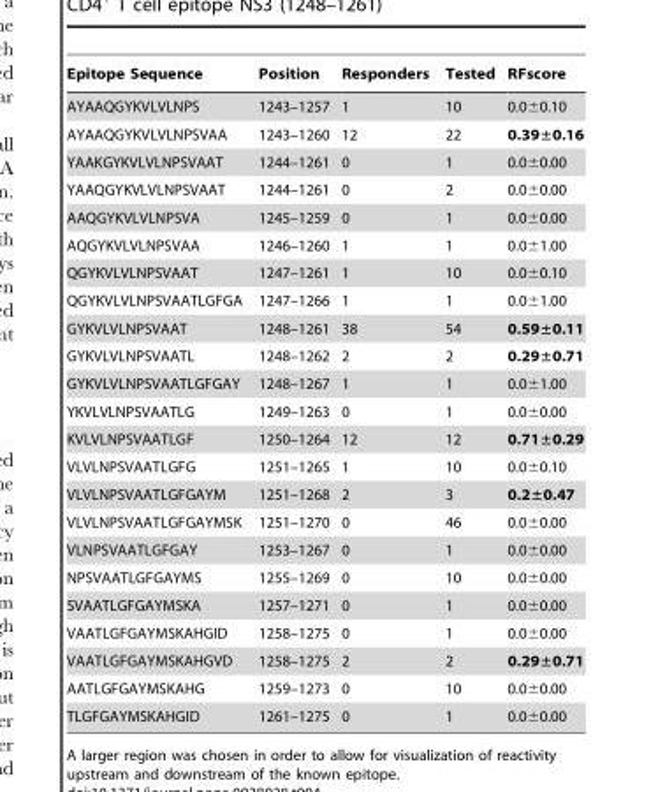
<table><thead><tr><td>Epitope Sequence</td><td>Position</td><td>Responders</td><td>Tested</td><td>RFscore</td></tr></thead><tbody><tr><td>AYAAQGYKVLVLNPS</td><td>1243–1257</td><td>1</td><td>10</td><td>0.0±0.10</td></tr><tr><td>AYAAQGYKVLVLNPSVAA</td><td>1243–1260</td><td>12</td><td>22</td><td>0.39±0.16</td></tr><tr><td>YAAKGYKVLVLNPSVAAT</td><td>1244–1261</td><td>0</td><td>1</td><td>0.0±0.00</td></tr><tr><td>YAAQGYKVLVLNPSVAAT</td><td>1244–1261</td><td>0</td><td>2</td><td>0.0±0.00</td></tr><tr><td>AAQGYKVLVLNPSVA</td><td>1245–1259</td><td>0</td><td>1</td><td>0.0±0.00</td></tr><tr><td>AQGYKVLVLNPSVAA</td><td>1246–1260</td><td>1</td><td>1</td><td>0.0±1.00</td></tr><tr><td>QGYKVLVLNPSVAAT</td><td>1247–1261</td><td>1</td><td>10</td><td>0.0±0.10</td></tr><tr><td>QGYKVLVLNPSVAATLGFGA</td><td>1247–1266</td><td>1</td><td>1</td><td>0.0±1.00</td></tr><tr><td>GYKVLVLNPSVAAT</td><td>1248–1261</td><td>38</td><td>54</td><td>0.59±0.11</td></tr><tr><td>GYKVLVLNPSVAATL</td><td>1248–1262</td><td>2</td><td>2</td><td>0.29±0.71</td></tr><tr><td>GYKVLVLNPSVAATLGFGAY</td><td>1248–1267</td><td>1</td><td>1</td><td>0.0±1.00</td></tr><tr><td>YKVLVLNPSVAATLG</td><td>1249–1263</td><td>0</td><td>1</td><td>0.0±0.00</td></tr><tr><td>KVLVLNPSVAATLGF</td><td>1250–1264</td><td>12</td><td>12</td><td>0.71±0.29</td></tr><tr><td>VLVLNPSVAATLGFG</td><td>1251–1265</td><td>1</td><td>10</td><td>0.0±0.10</td></tr><tr><td>VLVLNPSVAATLGFGAYM</td><td>1251–1268</td><td>2</td><td>3</td><td>0.2±0.47</td></tr><tr><td>VLVLNPSVAATLGFGAYMSK</td><td>1251–1270</td><td>0</td><td>46</td><td>0.0±0.00</td></tr><tr><td>VLNPSVAATLGFGAY</td><td>1253–1267</td><td>0</td><td>1</td><td>0.0±0.00</td></tr><tr><td>NPSVAATLGFGAYMS</td><td>1255–1269</td><td>0</td><td>10</td><td>0.0±0.00</td></tr><tr><td>SVAATLGFGAYMSKA</td><td>1257–1271</td><td>0</td><td>1</td><td>0.0±0.00</td></tr><tr><td>VAATLGFGAYMSKAHGID</td><td>1258–1275</td><td>0</td><td>1</td><td>0.0±0.00</td></tr><tr><td>VAATLGFGAYMSKAHGVD</td><td>1258–1275</td><td>2</td><td>2</td><td>0.29±0.71</td></tr><tr><td>AATLGFGAYMSKAHG</td><td>1259–1273</td><td>0</td><td>10</td><td>0.0±0.00</td></tr><tr><td>TLGFGAYMSKAHGID</td><td>1261–1275</td><td>0</td><td>1</td><td>0.0±0.00</td></tr></tbody></table>